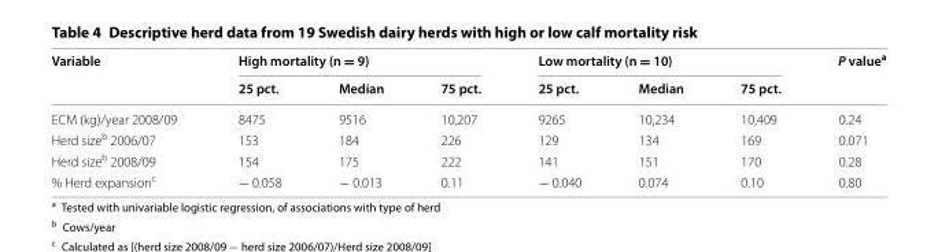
<table><thead><tr><td rowspan="2">Variable</td><td colspan="3">High mortality (n = 9)</td><td colspan="3">Low mortality (n = 10)</td><td rowspan="2">P value<sup>a</sup></td></tr><tr><td>25 pct.</td><td>Median</td><td>75 pct.</td><td>25 pct.</td><td>Median</td><td>75 pct.</td></tr></thead><tbody><tr><td>ECM (kg)/year 2008/09</td><td>8475</td><td>9516</td><td>10,207</td><td>9265</td><td>10,234</td><td>10,409</td><td>0.24</td></tr><tr><td>Herd size<sup>b</sup> 2006/07</td><td>153</td><td>184</td><td>226</td><td>129</td><td>134</td><td>169</td><td>0.071</td></tr><tr><td>Herd size<sup>b</sup> 2008/09</td><td>154</td><td>175</td><td>222</td><td>141</td><td>151</td><td>170</td><td>0.28</td></tr><tr><td>% Herd expansion<sup>c</sup></td><td>− 0.058</td><td>− 0.013</td><td>0.11</td><td>− 0.040</td><td>0.074</td><td>0.10</td><td>0.80</td></tr></tbody></table>